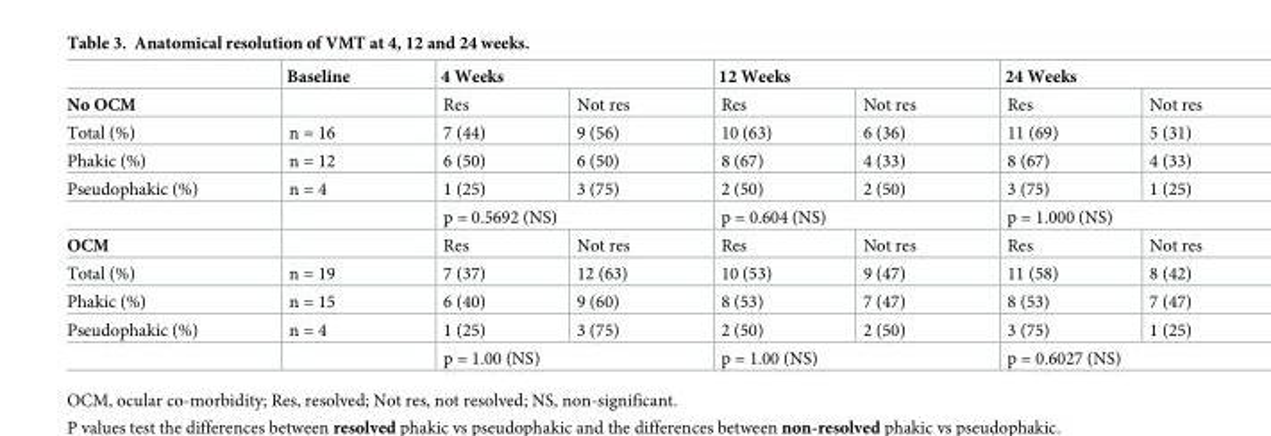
<table><thead><tr><td rowspan="2">No OCM</td><td rowspan="2">Baseline</td><td colspan="2">4 Weeks</td><td colspan="2">12 Weeks</td><td colspan="2">24 Weeks</td></tr><tr><td>Res</td><td>Not res</td><td>Res</td><td>Not res</td><td>Res</td><td>Not res</td></tr></thead><tbody><tr><td>Total (%)</td><td>n = 16</td><td>7 (44)</td><td>9 (56)</td><td>10 (63)</td><td>6 (36)</td><td>11 (69)</td><td>5 (31)</td></tr><tr><td>Phakic (%)</td><td>n = 12</td><td>6 (50)</td><td>6 (50)</td><td>8 (67)</td><td>4 (33)</td><td>8 (67)</td><td>4 (33)</td></tr><tr><td rowspan="2">Pseudophakic (%)</td><td>n = 4</td><td>1 (25)</td><td>3 (75)</td><td>2 (50)</td><td>2 (50)</td><td>3 (75)</td><td>1 (25)</td></tr><tr><td></td><td colspan="2">p = 0.5692 (NS)</td><td colspan="2">p = 0.604 (NS)</td><td colspan="2">p = 1.000 (NS)</td></tr><tr><td>OCM</td><td></td><td>Res</td><td>Not res</td><td>Res</td><td>Not res</td><td>Res</td><td>Not res</td></tr><tr><td>Total (%)</td><td>n = 19</td><td>7 (37)</td><td>12 (63)</td><td>10 (53)</td><td>9 (47)</td><td>11 (58)</td><td>8 (42)</td></tr><tr><td>Phakic (%)</td><td>n = 15</td><td>6 (40)</td><td>9 (60)</td><td>8 (53)</td><td>7 (47)</td><td>8 (53)</td><td>7 (47)</td></tr><tr><td rowspan="2">Pseudophakic (%)</td><td>n = 4</td><td>1 (25)</td><td>3 (75)</td><td>2 (50)</td><td>2 (50)</td><td>3 (75)</td><td>1 (25)</td></tr><tr><td></td><td colspan="2">p = 1.00 (NS)</td><td colspan="2">p = 1.00 (NS)</td><td colspan="2">p = 0.6027 (NS)</td></tr></tbody></table>